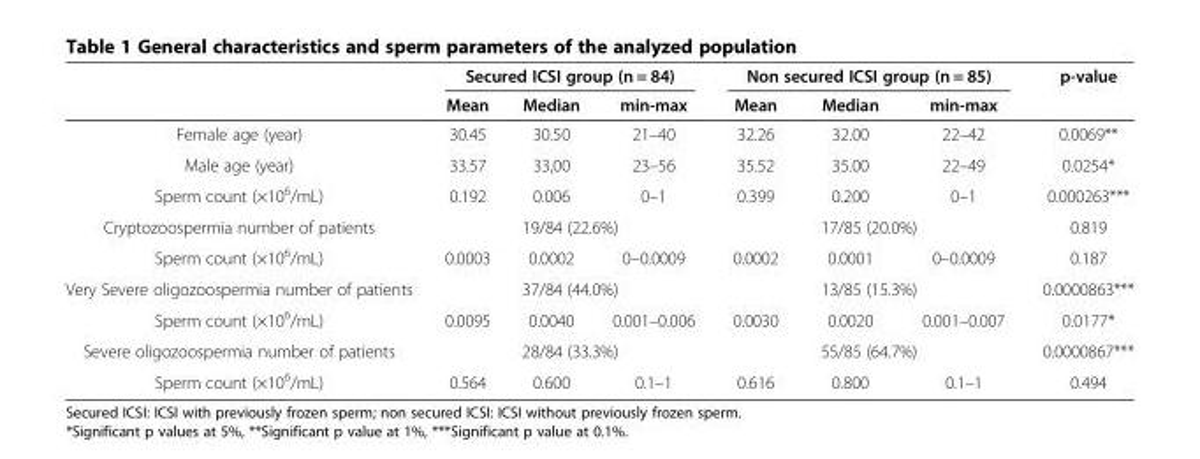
<table><thead><tr><td rowspan="2"></td><td colspan="3">Secured ICSI group (n = 84)</td><td colspan="3">Non secured ICSI group (n = 85)</td><td rowspan="2">p-value</td></tr><tr><td>Mean</td><td>Median</td><td>min-max</td><td>Mean</td><td>Median</td><td>min-max</td></tr></thead><tbody><tr><td>Female age (year)</td><td>30.45</td><td>30.50</td><td>21–40</td><td>32.26</td><td>32.00</td><td>22–42</td><td>0.0069**</td></tr><tr><td>Male age (year)</td><td>33.57</td><td>33,00</td><td>23–56</td><td>35.52</td><td>35.00</td><td>22–49</td><td>0.0254*</td></tr><tr><td>Sperm count (×10<sup>6</sup>/mL)</td><td>0.192</td><td>0.006</td><td>0–1</td><td>0.399</td><td>0.200</td><td>0–1</td><td>0.000263***</td></tr><tr><td>Cryptozoospermia number of patients</td><td colspan="3">19/84 (22.6%)</td><td colspan="3">17/85 (20.0%)</td><td>0.819</td></tr><tr><td>Sperm count (×10<sup>6</sup>/mL)</td><td>0.0003</td><td>0.0002</td><td>0–0.0009</td><td>0.0002</td><td>0.0001</td><td>0–0.0009</td><td>0.187</td></tr><tr><td>Very Severe oligozoospermia number of patients</td><td colspan="3">37/84 (44.0%)</td><td colspan="3">13/85 (15.3%)</td><td>0.0000863***</td></tr><tr><td>Sperm count (×10<sup>6</sup>/mL)</td><td>0.0095</td><td>0.0040</td><td>0.001–0.006</td><td>0.0030</td><td>0.0020</td><td>0.001–0.007</td><td>0.0177*</td></tr><tr><td>Severe oligozoospermia number of patients</td><td colspan="3">28/84 (33.3%)</td><td colspan="3">55/85 (64.7%)</td><td>0.0000867***</td></tr><tr><td>Sperm count (×10<sup>6</sup>/mL)</td><td>0.564</td><td>0.600</td><td>0.1–1</td><td>0.616</td><td>0.800</td><td>0.1–1</td><td>0.494</td></tr></tbody></table>